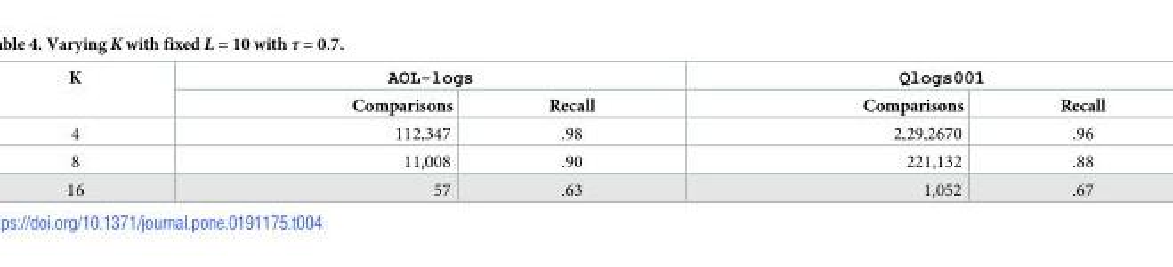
<table><thead><tr><td rowspan="2">K</td><td colspan="2">AOL-logs</td><td colspan="2">Qlogs001</td></tr><tr><td>Comparisons</td><td>Recall</td><td>Comparisons</td><td>Recall</td></tr></thead><tbody><tr><td>4</td><td>112,347</td><td>.98</td><td>2,29,2670</td><td>.96</td></tr><tr><td>8</td><td>11,008</td><td>.90</td><td>221,132</td><td>.88</td></tr><tr><td>16</td><td>57</td><td>.63</td><td>1,052</td><td>.67</td></tr></tbody></table>